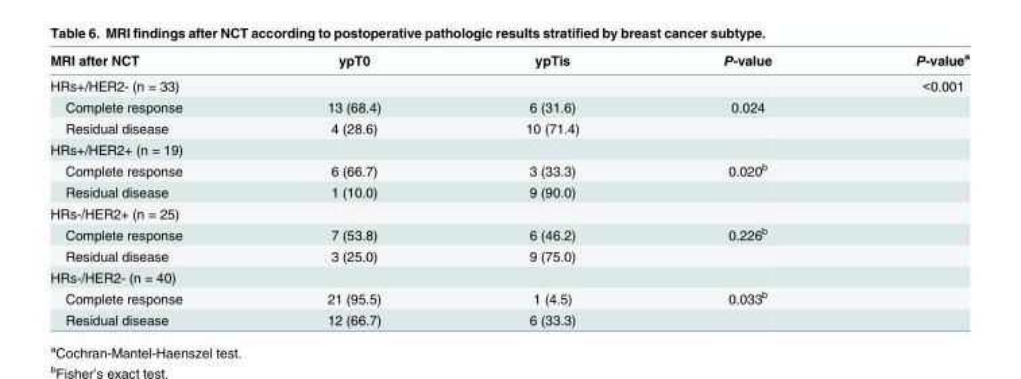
<table><thead><tr><td>MRI after NCT</td><td>ypT0</td><td>ypTis</td><td>P-value</td><td>P-value<sup>a</sup></td></tr></thead><tbody><tr><td>HRs+/HER2- (n = 33)</td><td></td><td></td><td></td><td>&lt;0.001</td></tr><tr><td>Complete response</td><td>13 (68.4)</td><td>6 (31.6)</td><td>0.024</td><td></td></tr><tr><td>Residual disease</td><td>4 (28.6)</td><td>10 (71.4)</td><td></td><td></td></tr><tr><td colspan="5">HRs+/HER2+ (n = 19)</td></tr><tr><td>Complete response</td><td>6 (66.7)</td><td>3 (33.3)</td><td>0.020<sup>b</sup></td><td></td></tr><tr><td>Residual disease</td><td>1 (10.0)</td><td>9 (90.0)</td><td></td><td></td></tr><tr><td colspan="5">HRs-/HER2+ (n = 25)</td></tr><tr><td>Complete response</td><td>7 (53.8)</td><td>6 (46.2)</td><td>0.226<sup>b</sup></td><td></td></tr><tr><td>Residual disease</td><td>3 (25.0)</td><td>9 (75.0)</td><td></td><td></td></tr><tr><td colspan="5">HRs-/HER2- (n = 40)</td></tr><tr><td>Complete response</td><td>21 (95.5)</td><td>1 (4.5)</td><td>0.033<sup>b</sup></td><td></td></tr><tr><td>Residual disease</td><td>12 (66.7)</td><td>6 (33.3)</td><td></td><td></td></tr></tbody></table>